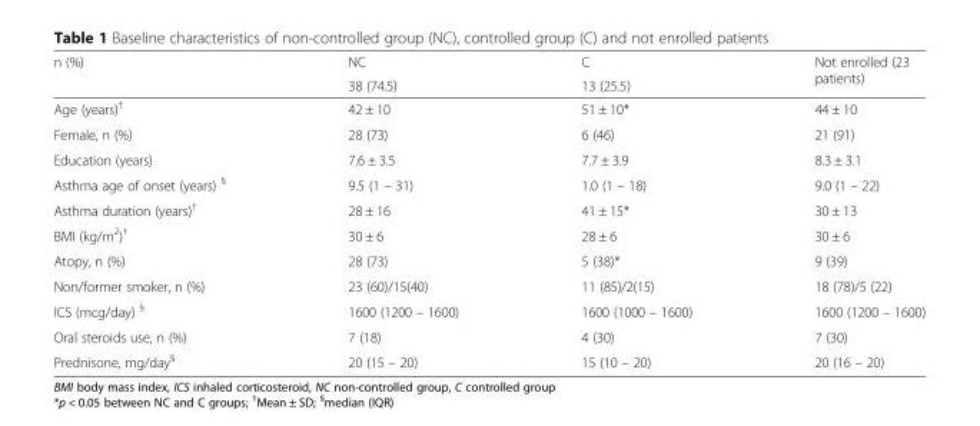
<table><thead><tr><td rowspan="2">n (%)</td><td rowspan="2">NC 38 (74.5)</td><td rowspan="2">C 13 (25.5)</td><td rowspan="2">Not enrolled (23 patients)</td></tr><tr></tr></thead><tbody><tr><td>Age (years)<sup>†</sup></td><td>42 ± 10</td><td>51 ± 10*</td><td>44 ± 10</td></tr><tr><td>Female, n (%)</td><td>28 (73)</td><td>6 (46)</td><td>21 (91)</td></tr><tr><td>Education (years)</td><td>7.6 ± 3.5</td><td>7.7 ± 3.9</td><td>8.3 ± 3.1</td></tr><tr><td>Asthma age of onset (years) <sup>§</sup></td><td>9.5 (1 – 31)</td><td>1.0 (1 – 18)</td><td>9.0 (1 – 22)</td></tr><tr><td>Asthma duration (years)<sup>†</sup></td><td>28 ± 16</td><td>41 ± 15*</td><td>30 ± 13</td></tr><tr><td>BMI (kg/m<sup>2</sup>)<sup>†</sup></td><td>30 ± 6</td><td>28 ± 6</td><td>30 ± 6</td></tr><tr><td>Atopy, n (%)</td><td>28 (73)</td><td>5 (38)*</td><td>9 (39)</td></tr><tr><td>Non/former smoker, n (%)</td><td>23 (60)/15(40)</td><td>11 (85)/2(15)</td><td>18 (78)/5 (22)</td></tr><tr><td>ICS (mcg/day) <sup>§</sup></td><td>1600 (1200 – 1600)</td><td>1600 (1000 – 1600)</td><td>1600 (1200 – 1600)</td></tr><tr><td>Oral steroids use, n (%)</td><td>7 (18)</td><td>4 (30)</td><td>7 (30)</td></tr><tr><td>Prednisone, mg/day<sup>§</sup></td><td>20 (15 – 20)</td><td>15 (10 – 20)</td><td>20 (16 – 20)</td></tr></tbody></table>